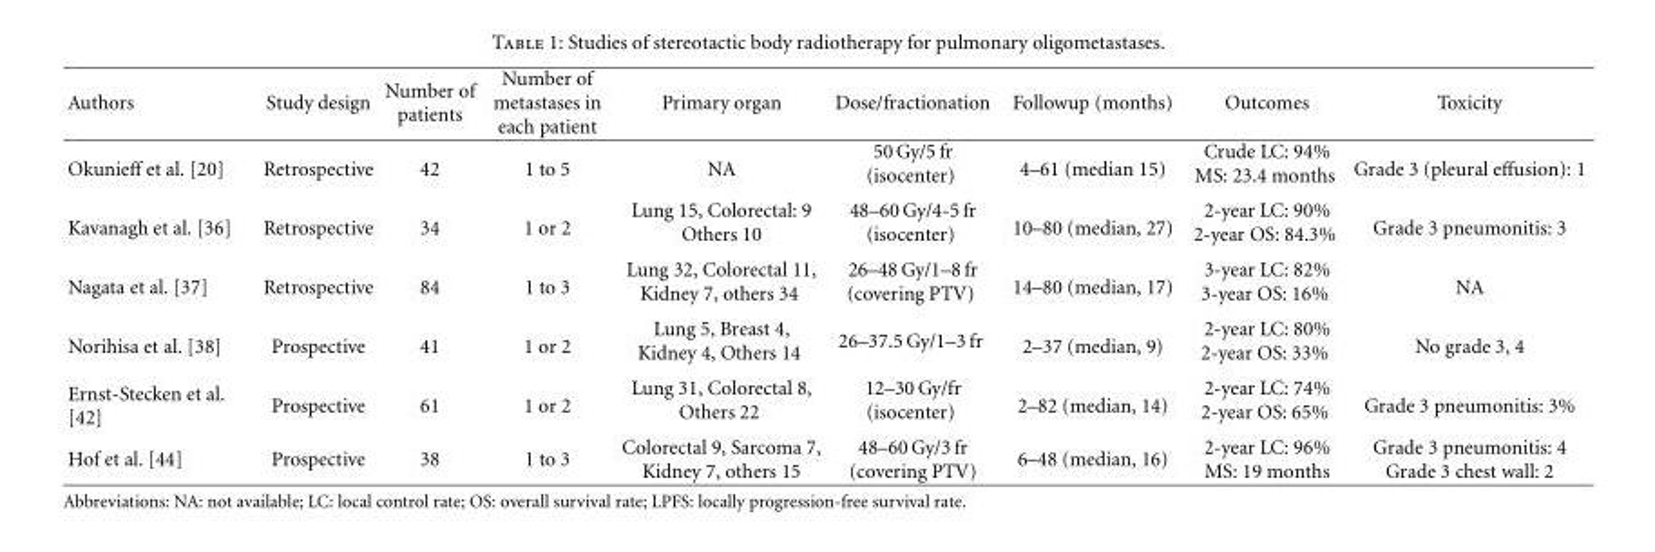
<table><thead><tr><td>Authors</td><td>Study design</td><td>Number of patients</td><td>Number of metastases in each patient</td><td>Primary organ</td><td>Dose/fractionation</td><td>Followup (months)</td><td>Outcomes</td><td>Toxicity</td></tr></thead><tbody><tr><td>Okunieff et al. [20]</td><td>Retrospective</td><td>42</td><td>1 to 5</td><td>NA</td><td>50 Gy/5 fr (isocenter)</td><td>4–61 (median 15)</td><td>Crude LC: 94% MS: 23.4 months</td><td>Grade 3 (pleural effusion): 1</td></tr><tr><td>Kavanagh et al. [36]</td><td>Retrospective</td><td>34</td><td>1 or 2</td><td>Lung 15, Colorectal: 9 Others 10</td><td>48–60 Gy/4-5 fr (isocenter)</td><td>10–80 (median, 27)</td><td>2-year LC: 90% 2-year OS: 84.3%</td><td>Grade 3 pneumonitis: 3</td></tr><tr><td>Nagata et al. [37]</td><td>Retrospective</td><td>84</td><td>1 to 3</td><td>Lung 32, Colorectal 11, Kidney 7, others 34</td><td>26–48 Gy/1–8 fr (covering PTV)</td><td>14–80 (median, 17)</td><td>3-year LC: 82% 3-year OS: 16%</td><td>NA</td></tr><tr><td>Norihisa et al. [38]</td><td>Prospective</td><td>41</td><td>1 or 2</td><td>Lung 5, Breast 4, Kidney 4, Others 14</td><td>26–37.5 Gy/1–3 fr</td><td>2–37 (median, 9)</td><td>2-year LC: 80% 2-year OS: 33%</td><td>No grade 3, 4</td></tr><tr><td>Ernst-Stecken et al. [42]</td><td>Prospective</td><td>61</td><td>1 or 2</td><td>Lung 31, Colorectal 8, Others 22</td><td>12–30 Gy/fr (isocenter)</td><td>2–82 (median, 14)</td><td>2-year LC: 74% 2-year OS: 65%</td><td>Grade 3 pneumonitis: 3%</td></tr><tr><td>Hof et al. [44]</td><td>Prospective</td><td>38</td><td>1 to 3</td><td>Colorectal 9, Sarcoma 7, Kidney 7, others 15</td><td>48–60 Gy/3 fr (covering PTV)</td><td>6–48 (median, 16)</td><td>2-year LC: 96% MS: 19 months</td><td>Grade 3 pneumonitis: 4 Grade 3 chest wall: 2</td></tr></tbody></table>